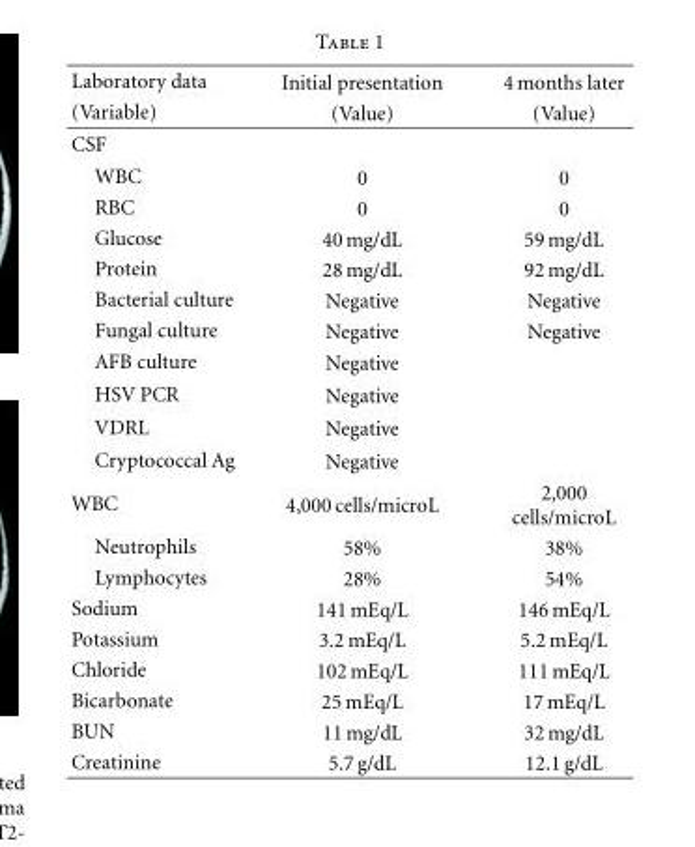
<table><thead><tr><td rowspan="2">Laboratory data (Variable)</td><td rowspan="2">Initial presentation (Value)</td><td rowspan="2">4 months later (Value)</td></tr><tr></tr></thead><tbody><tr><td colspan="3">CSF</td></tr><tr><td>WBC</td><td>0</td><td>0</td></tr><tr><td>RBC</td><td>0</td><td>0</td></tr><tr><td>Glucose</td><td>40 mg/dL</td><td>59 mg/dL</td></tr><tr><td>Protein</td><td>28 mg/dL</td><td>92 mg/dL</td></tr><tr><td>Bacterial culture</td><td>Negative</td><td>Negative</td></tr><tr><td>Fungal culture</td><td>Negative</td><td>Negative</td></tr><tr><td>AFB culture</td><td>Negative</td><td></td></tr><tr><td>HSV PCR</td><td>Negative</td><td></td></tr><tr><td>VDRL</td><td>Negative</td><td></td></tr><tr><td>Cryptococcal Ag</td><td>Negative</td><td></td></tr><tr><td>WBC</td><td>4,000 cells/microL</td><td>2,000 cells/microL</td></tr><tr><td>Neutrophils</td><td>58%</td><td>38%</td></tr><tr><td>Lymphocytes</td><td>28%</td><td>54%</td></tr><tr><td>Sodium</td><td>141 mEq/L</td><td>146 mEq/L</td></tr><tr><td>Potassium</td><td>3.2 mEq/L</td><td>5.2 mEq/L</td></tr><tr><td>Chloride</td><td>102 mEq/L</td><td>111 mEq/L</td></tr><tr><td>Bicarbonate</td><td>25 mEq/L</td><td>17 mEq/L</td></tr><tr><td>BUN</td><td>11 mg/dL</td><td>32 mg/dL</td></tr><tr><td>Creatinine</td><td>5.7 g/dL</td><td>12.1 g/dL</td></tr></tbody></table>